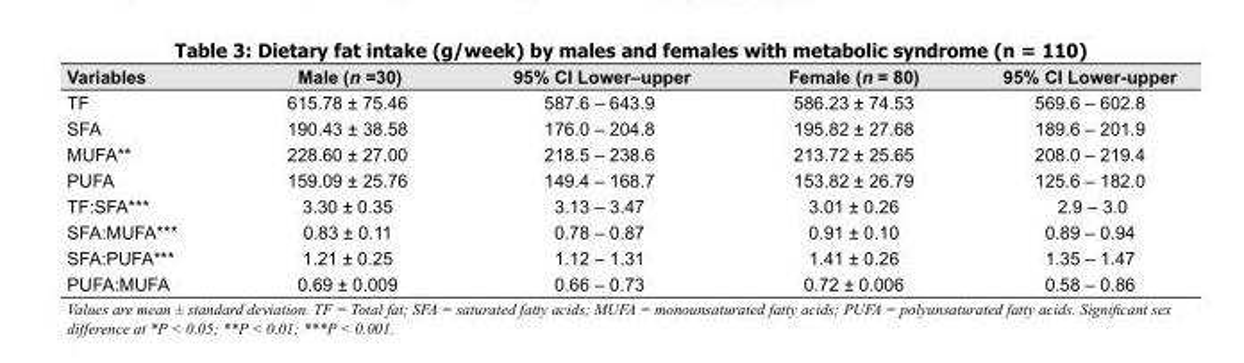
<table><thead><tr><td>Variables</td><td>Male (n =30)</td><td>95% CI Lower–upper</td><td>Female (n = 80)</td><td>95% CI Lower-upper</td></tr></thead><tbody><tr><td>TF</td><td>615.78 ± 75.46</td><td>587.6 – 643.9</td><td>586.23 ± 74.53</td><td>569.6 – 602.8</td></tr><tr><td>SFA</td><td>190.43 ± 38.58</td><td>176.0 – 204.8</td><td>195.82 ± 27.68</td><td>189.6 – 201.9</td></tr><tr><td>MUFA**</td><td>228.60 ± 27.00</td><td>218.5 – 238.6</td><td>213.72 ± 25.65</td><td>208.0 – 219.4</td></tr><tr><td>PUFA</td><td>159.09 ± 25.76</td><td>149.4 – 168.7</td><td>153.82 ± 26.79</td><td>125.6 – 182.0</td></tr><tr><td>TF:SFA***</td><td>3.30 ± 0.35</td><td>3.13 – 3.47</td><td>3.01 ± 0.26</td><td>2.9 – 3.0</td></tr><tr><td>SFA:MUFA***</td><td>0.83 ± 0.11</td><td>0.78 – 0.87</td><td>0.91 ± 0.10</td><td>0.89 – 0.94</td></tr><tr><td>SFA:PUFA***</td><td>1.21 ± 0.25</td><td>1.12 – 1.31</td><td>1.41 ± 0.26</td><td>1.35 – 1.47</td></tr><tr><td>PUFA:MUFA</td><td>0.69 ± 0.009</td><td>0.66 – 0.73</td><td>0.72 ± 0.006</td><td>0.58 – 0.86</td></tr></tbody></table>